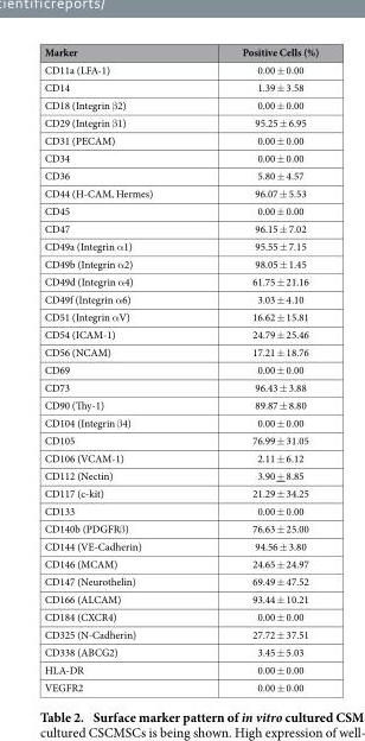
<table><thead><tr><td>Marker</td><td>Positive Cells (%)</td></tr></thead><tbody><tr><td>CD11a (LFA-1)</td><td>0.00 ± 0.00</td></tr><tr><td>CD14</td><td>1.39 ± 3.58</td></tr><tr><td>CD18 (Integrin β 2)</td><td>0.00 ± 0.00</td></tr><tr><td>CD29 (Integrin β 1)</td><td>95.25 ± 6.95</td></tr><tr><td>CD31 (PECAM)</td><td>0.00 ± 0.00</td></tr><tr><td>CD34</td><td>0.00 ± 0.00</td></tr><tr><td>CD36</td><td>5.80 ± 4.57</td></tr><tr><td>CD44 (H-CAM, Hermes)</td><td>96.07 ± 5.53</td></tr><tr><td>CD45</td><td>0.00 ± 0.00</td></tr><tr><td>CD47</td><td>96.15 ± 7.02</td></tr><tr><td>CD49a (Integrin α 1)</td><td>95.55 ± 7.15</td></tr><tr><td>CD49b (Integrin α 2)</td><td>98.05 ± 1.45</td></tr><tr><td>CD49d (Integrin α 4)</td><td>61.75 ± 21.16</td></tr><tr><td>CD49f (Integrin α 6)</td><td>3.03 ± 4.10</td></tr><tr><td>CD51 (Integrin α V)</td><td>16.62 ± 15.81</td></tr><tr><td>CD54 (ICAM-1)</td><td>24.79 ± 25.46</td></tr><tr><td>CD56 (NCAM)</td><td>17.21 ± 18.76</td></tr><tr><td>CD69</td><td>0.00 ± 0.00</td></tr><tr><td>CD73</td><td>96.43 ± 3.88</td></tr><tr><td>CD90 (Thy-1)</td><td>89.87 ± 8.80</td></tr><tr><td>CD104 (Integrin β 4)</td><td>0.00 ± 0.00</td></tr><tr><td>CD105</td><td>76.99 ± 31.05</td></tr><tr><td>CD106 (VCAM-1)</td><td>2.11 ± 6.12</td></tr><tr><td>CD112 (Nectin)</td><td>3.90 + 8.85</td></tr><tr><td>CD117 (c-kit)</td><td>21.29 ± 34.25</td></tr><tr><td>CD133</td><td>0.00 ± 0.00</td></tr><tr><td>CD140b (PDGFRβ )</td><td>76.63 ± 25.00</td></tr><tr><td>CD144 (VE-Cadherin)</td><td>94.56 ± 3.80</td></tr><tr><td>CD146 (MCAM)</td><td>24.65 ± 24.97</td></tr><tr><td>CD147 (Neurothelin)</td><td>69.49 ± 47.52</td></tr><tr><td>CD166 (ALCAM)</td><td>93.44 ± 10.21</td></tr><tr><td>CD184 (CXCR4)</td><td>0.00 ± 0.00</td></tr><tr><td>CD325 (N-Cadherin)</td><td>27.72 ± 37.51</td></tr><tr><td>CD338 (ABCG2)</td><td>3.45 ± 5.03</td></tr><tr><td>HLA-DR</td><td>0.00 ± 0.00</td></tr><tr><td>VEGFR2</td><td>0.00 ± 0.00</td></tr></tbody></table>